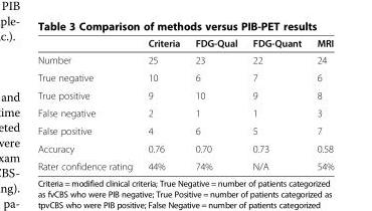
<table><thead><tr><td></td><td>Criteria</td><td>FDG-Qual</td><td>FDG-Quant</td><td>MRI</td></tr></thead><tbody><tr><td>Number</td><td>25</td><td>23</td><td>22</td><td>24</td></tr><tr><td>True negative</td><td>10</td><td>6</td><td>7</td><td>6</td></tr><tr><td>True positive</td><td>9</td><td>10</td><td>9</td><td>8</td></tr><tr><td>False negative</td><td>2</td><td>1</td><td>1</td><td>3</td></tr><tr><td>False positive</td><td>4</td><td>6</td><td>5</td><td>7</td></tr><tr><td>Accuracy</td><td>0.76</td><td>0.70</td><td>0.73</td><td>0.58</td></tr><tr><td>Rater confidence rating</td><td>44%</td><td>74%</td><td>N/A</td><td>54%</td></tr></tbody></table>